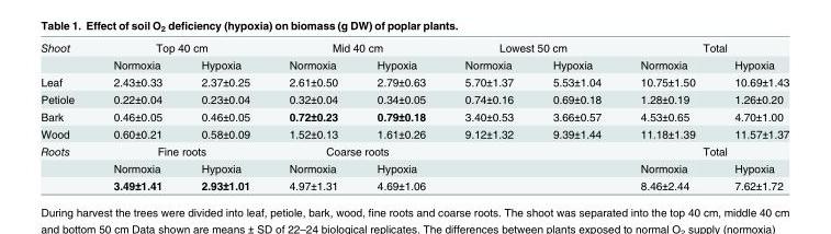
<table><tbody><tr><td rowspan="2">Shoot</td><td colspan="2">Top 40 cm</td><td colspan="2">Mid 40 cm</td><td colspan="2">Lowest 50 cm</td><td colspan="2">Total</td></tr><tr><td>Normoxia</td><td>Hypoxia</td><td>Normoxia</td><td>Hypoxia</td><td>Normoxia</td><td>Hypoxia</td><td>Normoxia</td><td>Hypoxia</td></tr><tr><td>Leaf</td><td>2.43±0.33</td><td>2.37±0.25</td><td>2.61±0.50</td><td>2.79±0.63</td><td>5.70±1.37</td><td>5.53±1.04</td><td>10.75±1.50</td><td>10.69±1.43</td></tr><tr><td>Petiole</td><td>0.22±0.04</td><td>0.23±0.04</td><td>0.32±0.04</td><td>0.34±0.05</td><td>0.74±0.16</td><td>0.69±0.18</td><td>1.28±0.19</td><td>1.26±0.20</td></tr><tr><td>Bark</td><td>0.46±0.05</td><td>0.46±0.05</td><td>0.72±0.23</td><td>0.79±0.18</td><td>3.40±0.53</td><td>3.66±0.57</td><td>4.53±0.65</td><td>4.70±1.00</td></tr><tr><td>Wood</td><td>0.60±0.21</td><td>0.58±0.09</td><td>1.52±0.13</td><td>1.61±0.26</td><td>9.12±1.32</td><td>9.39±1.44</td><td>11.18±1.39</td><td>11.57±1.37</td></tr><tr><td rowspan="3">Roots</td><td colspan="2">Fine roots</td><td colspan="2">Coarse roots</td><td></td><td></td><td colspan="2">Total</td></tr><tr><td>Normoxia</td><td>Hypoxia</td><td>Normoxia</td><td>Hypoxia</td><td></td><td></td><td>Normoxia</td><td>Hypoxia</td></tr><tr><td>3.49±1.41</td><td>2.93±1.01</td><td>4.97±1.31</td><td>4.69±1.06</td><td></td><td></td><td>8.46±2.44</td><td>7.62±1.72</td></tr></tbody></table>